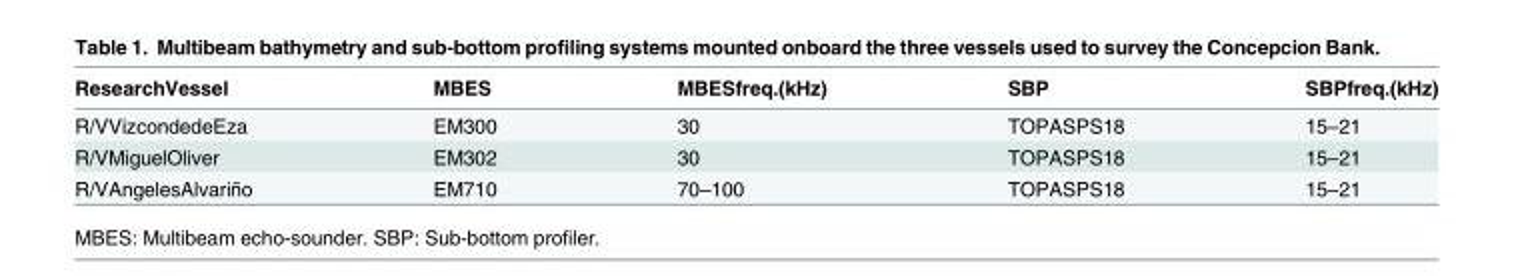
<table><thead><tr><td>ResearchVessel</td><td>MBES</td><td>MBESfreq.(kHz)</td><td>SBP</td><td>SBPfreq.(kHz)</td></tr></thead><tbody><tr><td>R/VVizcondedeEza</td><td>EM300</td><td>30</td><td>TOPASPS18</td><td>15–21</td></tr><tr><td>R/VMiguelOliver</td><td>EM302</td><td>30</td><td>TOPASPS18</td><td>15–21</td></tr><tr><td>R/VAngelesAlvariño</td><td>EM710</td><td>70–100</td><td>TOPASPS18</td><td>15–21</td></tr></tbody></table>